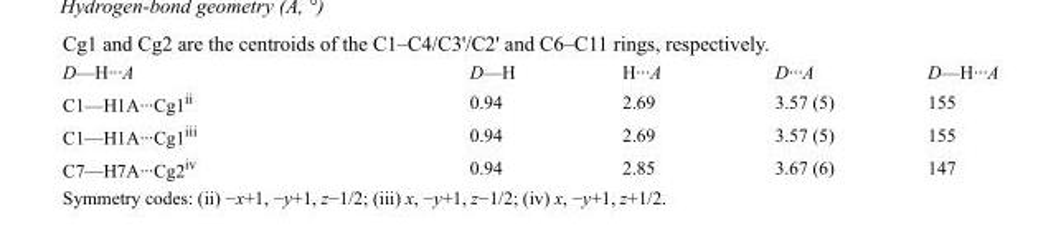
<table><tbody><tr><td>D—H···A</td><td>D—H</td><td>H···A</td><td>D···A</td><td>D—H···A</td></tr><tr><td>C1—H1A···Cg1<sup>ii</sup></td><td>0.94</td><td>2.69</td><td>3.57 (5)</td><td>155</td></tr><tr><td>C1—H1A···Cg1<sup>iii</sup></td><td>0.94</td><td>2.69</td><td>3.57 (5)</td><td>155</td></tr><tr><td>C7—H7A···Cg2<sup>iv</sup></td><td>0.94</td><td>2.85</td><td>3.67 (6)</td><td>147</td></tr></tbody></table>